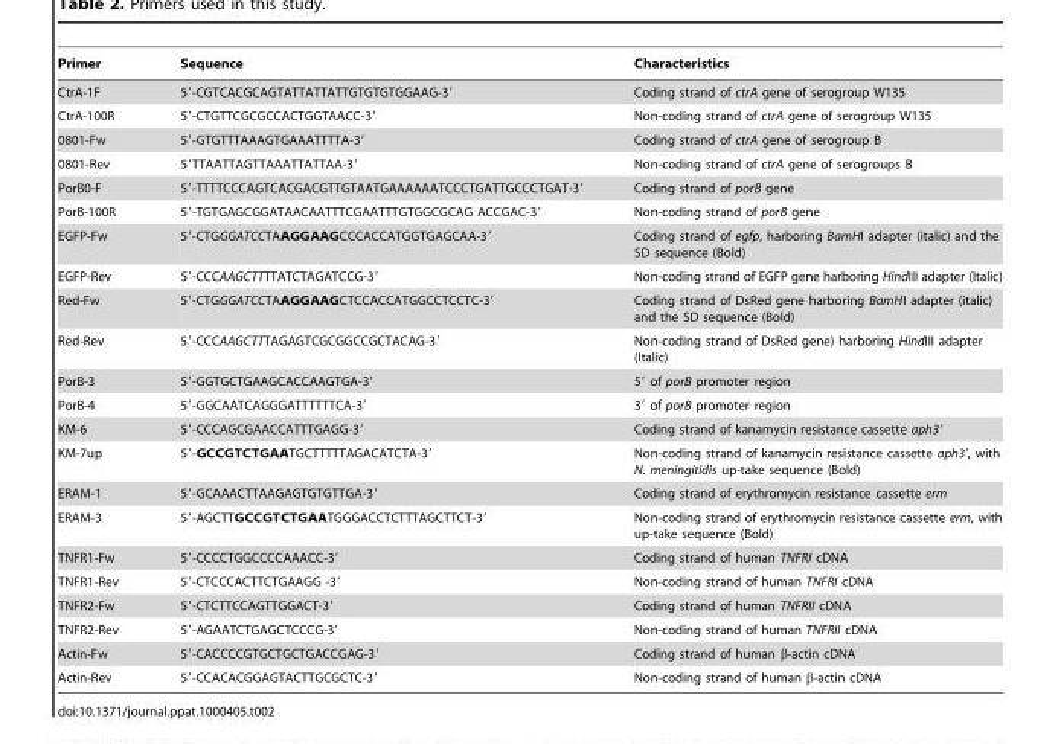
<table><thead><tr><td>Primer</td><td>Sequence</td><td>Characteristics</td></tr></thead><tbody><tr><td>CtrA-1F</td><td>5′-CGTCACGCAGTATTATTATTGTGTGTGGAAG-3′</td><td>Coding strand of ctrA gene of serogroup W135</td></tr><tr><td>CtrA-100R</td><td>5′-CTGTTCGCGCCACTGGTAACC-3′</td><td>Non-coding strand of ctrA gene of serogroup W135</td></tr><tr><td>0801-Fw</td><td>5′-GTGTTTAAAGTGAAATTTTA-3′</td><td>Coding strand of ctrA gene of serogroup B</td></tr><tr><td>0801-Rev</td><td>5′TTAATTAGTTAAATTATTAA-3′</td><td>Non-coding strand of ctrA gene of serogroups B</td></tr><tr><td>PorB0-F</td><td>5′-TTTTCCCAGTCACGACGTTGTAATGAAAAAATCCCTGATTGCCCTGAT-3′</td><td>Coding strand of porB gene</td></tr><tr><td>PorB-100R</td><td>5′-TGTGAGCGGATAACAATTTCGAATTTGTGGCGCAG ACCGAC-3′</td><td>Non-coding strand of porB gene</td></tr><tr><td>EGFP-Fw</td><td>5′-CTGGGATCCTAAGGAAGCCCACCATGGTGAGCAA-3′</td><td>Coding strand of egfp, harboring BamHI adapter (italic) and the SD sequence (Bold)</td></tr><tr><td>EGFP-Rev</td><td>5′-CCCAAGCTTTTATCTAGATCCG-3′</td><td>Non-coding strand of EGFP gene harboring HindIII adapter (Italic)</td></tr><tr><td>Red-Fw</td><td>5′-CTGGGATCCTAAGGAAGCTCCACCATGGCCTCCTC-3′</td><td>Coding strand of DsRed gene harboring BamHI adapter (italic) and the SD sequence (Bold)</td></tr><tr><td>Red-Rev</td><td>5′-CCCAAGCTTTAGAGTCGCGGCCGCTACAG-3′</td><td>Non-coding strand of DsRed gene) harboring HindIII adapter (Italic)</td></tr><tr><td>PorB-3</td><td>5′-GGTGCTGAAGCACCAAGTGA-3′</td><td>5′ of porB promoter region</td></tr><tr><td>PorB-4</td><td>5′-GGCAATCAGGGATTTTTTCA-3′</td><td>3′ of porB promoter region</td></tr><tr><td>KM-6</td><td>5′-CCCAGCGAACCATTTGAGG-3′</td><td>Coding strand of kanamycin resistance cassette aph3’</td></tr><tr><td>KM-7up</td><td>5′-GCCGTCTGAATGCTTTTTAGACATCTA-3′</td><td>Non-coding strand of kanamycin resistance cassette aph3’, with N. meningitidis up-take sequence (Bold)</td></tr><tr><td>ERAM-1</td><td>5′-GCAAACTTAAGAGTGTGTTGA-3′</td><td>Coding strand of erythromycin resistance cassette erm</td></tr><tr><td>ERAM-3</td><td>5′-AGCTTGCCGTCTGAATGGGACCTCTTTAGCTTCT-3′</td><td>Non-coding strand of erythromycin resistance cassette erm, with up-take sequence (Bold)</td></tr><tr><td>TNFR1-Fw</td><td>5′-CCCCTGGCCCCAAACC-3′</td><td>Coding strand of human TNFRI cDNA</td></tr><tr><td>TNFR1-Rev</td><td>5′-CTCCCACTTCTGAAGG -3′</td><td>Non-coding strand of human TNFRI cDNA</td></tr><tr><td>TNFR2-Fw</td><td>5′-CTCTTCCAGTTGGACT-3′</td><td>Coding strand of human TNFRII cDNA</td></tr><tr><td>TNFR2-Rev</td><td>5′-AGAATCTGAGCTCCCG-3′</td><td>Non-coding strand of human TNFRII cDNA</td></tr><tr><td>Actin-Fw</td><td>5′-CACCCCGTGCTGCTGACCGAG-3′</td><td>Coding strand of human β-actin cDNA</td></tr><tr><td>Actin-Rev</td><td>5′-CCACACGGAGTACTTGCGCTC-3′</td><td>Non-coding strand of human β-actin cDNA</td></tr></tbody></table>